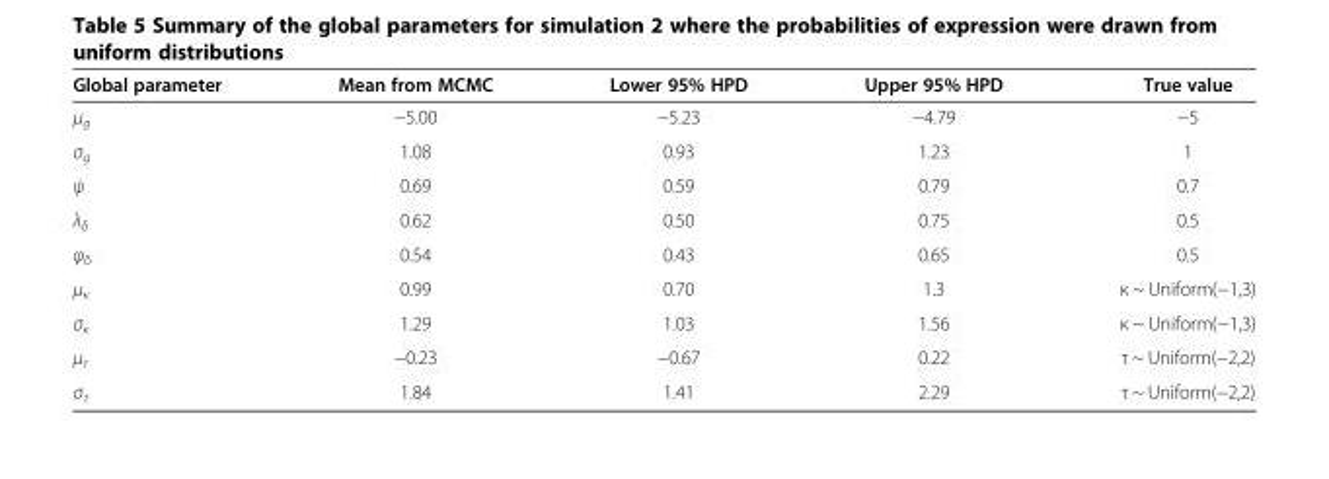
<table><thead><tr><td>Global parameter</td><td>Mean from MCMC</td><td>Lower 95% HPD</td><td>Upper 95% HPD</td><td>True value</td></tr></thead><tbody><tr><td>μ<sub>g</sub></td><td>−5.00</td><td>−5.23</td><td>−4.79</td><td>−5</td></tr><tr><td>σ<sub>g</sub></td><td>1.08</td><td>0.93</td><td>1.23</td><td>1</td></tr><tr><td>ψ</td><td>0.69</td><td>0.59</td><td>0.79</td><td>0.7</td></tr><tr><td>λ<sub>δ</sub></td><td>0.62</td><td>0.50</td><td>0.75</td><td>0.5</td></tr><tr><td>φ<sub>δ</sub></td><td>0.54</td><td>0.43</td><td>0.65</td><td>0.5</td></tr><tr><td>μ<sub>κ</sub></td><td>0.99</td><td>0.70</td><td>1.3</td><td>κ ~ Uniform(−1,3)</td></tr><tr><td>σ<sub>κ</sub></td><td>1.29</td><td>1.03</td><td>1.56</td><td>κ ~ Uniform(−1,3)</td></tr><tr><td>μ<sub>τ</sub></td><td>−0.23</td><td>−0.67</td><td>0.22</td><td>τ ~ Uniform(−2,2)</td></tr><tr><td>σ<sub>τ</sub></td><td>1.84</td><td>1.41</td><td>2.29</td><td>τ ~ Uniform(−2,2)</td></tr></tbody></table>